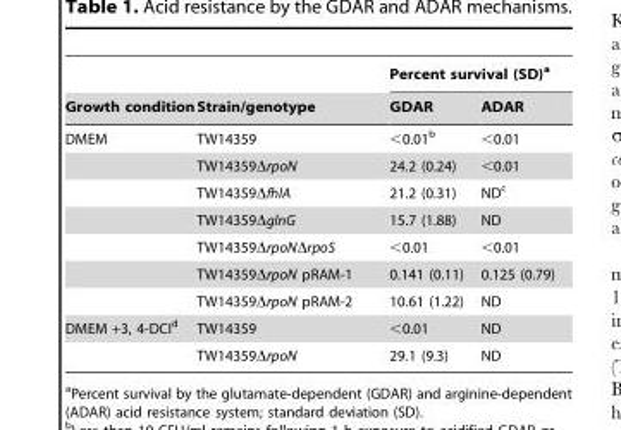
<table><thead><tr><td rowspan="2">Growth condition</td><td rowspan="2">Strain/genotype</td><td colspan="2">Percent survival (SD)<sup>a</sup></td></tr><tr><td>GDAR</td><td>ADAR</td></tr></thead><tbody><tr><td rowspan="7">DMEM</td><td>TW14359</td><td>&lt;0.01<sup>b</sup></td><td>&lt;0.01</td></tr><tr><td>TW14359ΔrpoN</td><td>24.2 (0.24)</td><td>&lt;0.01</td></tr><tr><td>TW14359ΔfhlA</td><td>21.2 (0.31)</td><td>ND<sup>c</sup></td></tr><tr><td>TW14359ΔglnG</td><td>15.7 (1.88)</td><td>ND</td></tr><tr><td>TW14359ΔrpoNΔrpoS</td><td>&lt;0.01</td><td>&lt;0.01</td></tr><tr><td>TW14359ΔrpoN pRAM-1</td><td>0.141 (0.11)</td><td>0.125 (0.79)</td></tr><tr><td>TW14359ΔrpoN pRAM-2</td><td>10.61 (1.22)</td><td>ND</td></tr><tr><td rowspan="2">DMEM +3, 4-DCI<sup>d</sup></td><td>TW14359</td><td>&lt;0.01</td><td>ND</td></tr><tr><td>TW14359ΔrpoN</td><td>29.1 (9.3)</td><td>ND</td></tr></tbody></table>